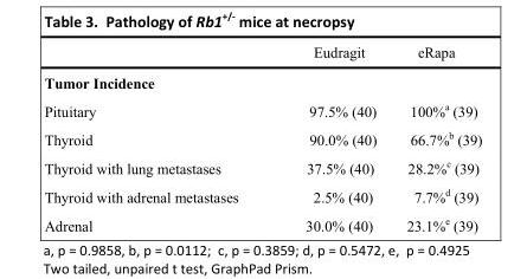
<table><thead><tr><td></td><td>Eudragit</td><td>eRapa</td></tr></thead><tbody><tr><td colspan="3">Tumor Incidence</td></tr><tr><td>Pituitary</td><td>97.5% (40)</td><td>100%<sup>a</sup> (39)</td></tr><tr><td>Thyroid</td><td>90.0% (40)</td><td>66.7%<sup>b</sup> (39)</td></tr><tr><td>Thyroid with lung metastases</td><td>37.5% (40)</td><td>28.2%<sup>c</sup> (39)</td></tr><tr><td>Thyroid with adrenal metastases</td><td>2.5% (40)</td><td>7.7%<sup>d</sup> (39)</td></tr><tr><td>Adrenal</td><td>30.0% (40)</td><td>23.1%<sup>e</sup> (39)</td></tr></tbody></table>